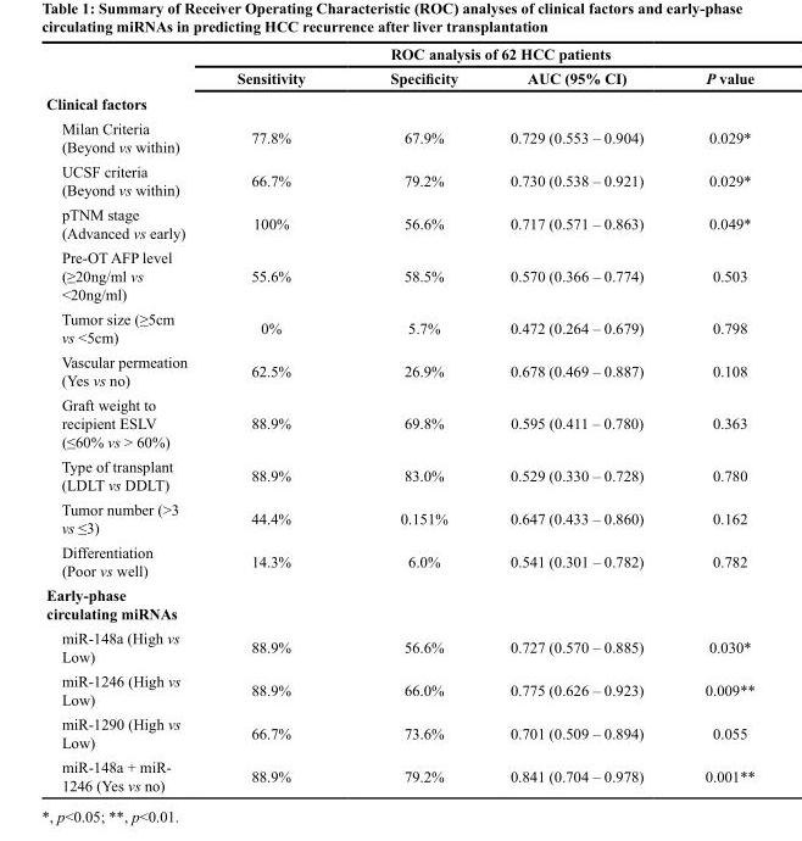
<table><thead><tr><td rowspan="2"></td><td colspan="4">ROC analysis of 62 HCC patients</td></tr><tr><td>Sensitivity</td><td>Specificity</td><td>AUC (95% CI)</td><td>P value</td></tr></thead><tbody><tr><td colspan="5">Clinical factors</td></tr><tr><td>Milan Criteria (Beyond vs within)</td><td>77.8%</td><td>67.9%</td><td>0.729 (0.553 – 0.904)</td><td>0.029*</td></tr><tr><td>UCSF criteria (Beyond vs within)</td><td>66.7%</td><td>79.2%</td><td>0.730 (0.538 – 0.921)</td><td>0.029*</td></tr><tr><td>pTNM stage (Advanced vs early)</td><td>100%</td><td>56.6%</td><td>0.717 (0.571 – 0.863)</td><td>0.049*</td></tr><tr><td>Pre-OT AFP level (≥20ng/ml vs &lt;20ng/ml)</td><td>55.6%</td><td>58.5%</td><td>0.570 (0.366 – 0.774)</td><td>0.503</td></tr><tr><td>Tumor size (≥5cm vs &lt;5cm)</td><td>0%</td><td>5.7%</td><td>0.472 (0.264 – 0.679)</td><td>0.798</td></tr><tr><td>Vascular permeation (Yes vs no)</td><td>62.5%</td><td>26.9%</td><td>0.678 (0.469 – 0.887)</td><td>0.108</td></tr><tr><td>Graft weight to recipient ESLV (≤60% vs &gt; 60%)</td><td>88.9%</td><td>69.8%</td><td>0.595 (0.411 – 0.780)</td><td>0.363</td></tr><tr><td>Type of transplant (LDLT vs DDLT)</td><td>88.9%</td><td>83.0%</td><td>0.529 (0.330 – 0.728)</td><td>0.780</td></tr><tr><td>Tumor number (&gt;3 vs ≤3)</td><td>44.4%</td><td>0.151%</td><td>0.647 (0.433 – 0.860)</td><td>0.162</td></tr><tr><td>Differentiation (Poor vs well)</td><td>14.3%</td><td>6.0%</td><td>0.541 (0.301 – 0.782)</td><td>0.782</td></tr><tr><td colspan="5">Early-phase circulating miRNAs</td></tr><tr><td>miR-148a (High vs Low)</td><td>88.9%</td><td>56.6%</td><td>0.727 (0.570 – 0.885)</td><td>0.030*</td></tr><tr><td>miR-1246 (High vs Low)</td><td>88.9%</td><td>66.0%</td><td>0.775 (0.626 – 0.923)</td><td>0.009**</td></tr><tr><td>miR-1290 (High vs Low)</td><td>66.7%</td><td>73.6%</td><td>0.701 (0.509 – 0.894)</td><td>0.055</td></tr><tr><td>miR-148a + miR- 1246 (Yes vs no)</td><td>88.9%</td><td>79.2%</td><td>0.841 (0.704 – 0.978)</td><td>0.001**</td></tr></tbody></table>